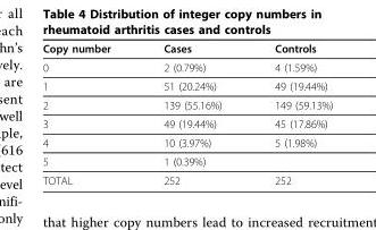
<table><thead><tr><td>Copy number</td><td>Cases</td><td>Controls</td></tr></thead><tbody><tr><td>0</td><td>2 (0.79%)</td><td>4 (1.59%)</td></tr><tr><td>1</td><td>51 (20.24%)</td><td>49 (19.44%)</td></tr><tr><td>2</td><td>139 (55.16%)</td><td>149 (59.13%)</td></tr><tr><td>3</td><td>49 (19.44%)</td><td>45 (17.86%)</td></tr><tr><td>4</td><td>10 (3.97%)</td><td>5 (1.98%)</td></tr><tr><td>5</td><td>1 (0.39%)</td><td></td></tr><tr><td>TOTAL</td><td>252</td><td>252</td></tr></tbody></table>